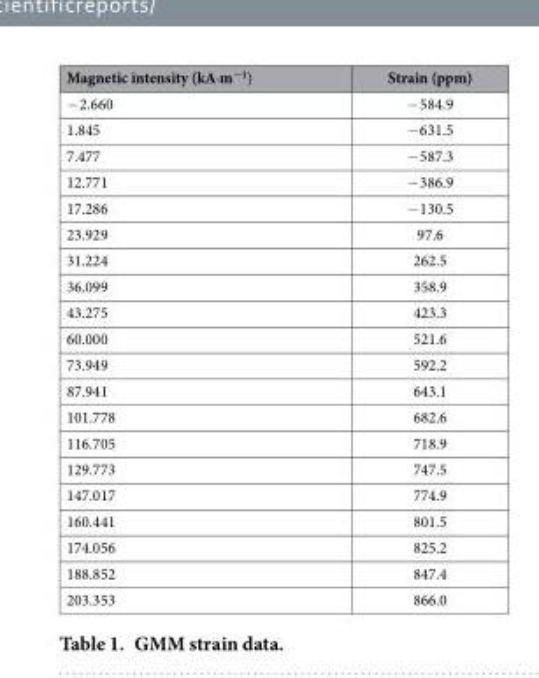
<table><thead><tr><td>Magnetic intensity (kA·m<sup>−1</sup>)</td><td>Strain (ppm)</td></tr></thead><tbody><tr><td>− 2.660</td><td>− 584.9</td></tr><tr><td>1.845</td><td>− 631.5</td></tr><tr><td>7.477</td><td>− 587.3</td></tr><tr><td>12.771</td><td>− 386.9</td></tr><tr><td>17.286</td><td>− 130.5</td></tr><tr><td>23.929</td><td>97.6</td></tr><tr><td>31.224</td><td>262.5</td></tr><tr><td>36.099</td><td>358.9</td></tr><tr><td>43.275</td><td>423.3</td></tr><tr><td>60.000</td><td>521.6</td></tr><tr><td>73.949</td><td>592.2</td></tr><tr><td>87.941</td><td>643.1</td></tr><tr><td>101.778</td><td>682.6</td></tr><tr><td>116.705</td><td>718.9</td></tr><tr><td>129.773</td><td>747.5</td></tr><tr><td>147.017</td><td>774.9</td></tr><tr><td>160.441</td><td>801.5</td></tr><tr><td>174.056</td><td>825.2</td></tr><tr><td>188.852</td><td>847.4</td></tr><tr><td>203.353</td><td>866.0</td></tr></tbody></table>